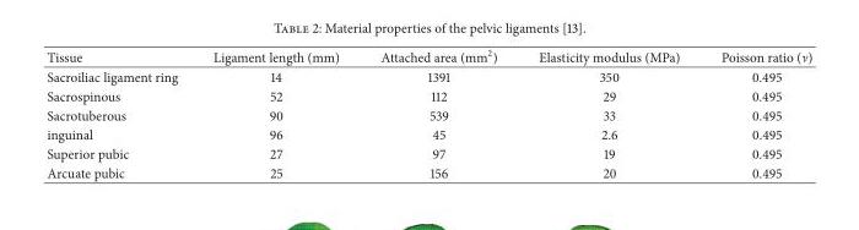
<table><thead><tr><td>Tissue</td><td>Ligament length (mm)</td><td>Attached area (mm<sup>2</sup>)</td><td>Elasticity modulus (MPa)</td><td>Poisson ratio (])</td></tr></thead><tbody><tr><td>Sacroiliac ligament ring</td><td>14</td><td>1391</td><td>350</td><td>0.495</td></tr><tr><td>Sacrospinous</td><td>52</td><td>112</td><td>29</td><td>0.495</td></tr><tr><td>Sacrotuberous</td><td>90</td><td>539</td><td>33</td><td>0.495</td></tr><tr><td>inguinal</td><td>96</td><td>45</td><td>2.6</td><td>0.495</td></tr><tr><td>Superior pubic</td><td>27</td><td>97</td><td>19</td><td>0.495</td></tr><tr><td>Arcuate pubic</td><td>25</td><td>156</td><td>20</td><td>0.495</td></tr></tbody></table>